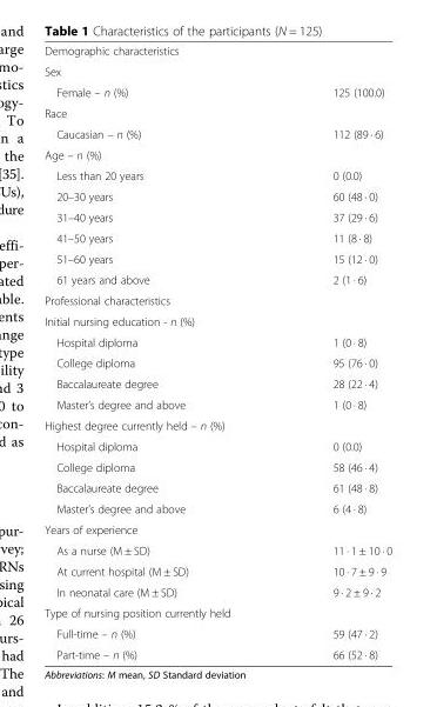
<table><tbody><tr><td colspan="2">Demographic characteristics</td></tr><tr><td colspan="2">Sex</td></tr><tr><td>Female – n (%)</td><td>125 (100.0)</td></tr><tr><td colspan="2">Race</td></tr><tr><td>Caucasian – n (%)</td><td>112 (89 · 6)</td></tr><tr><td colspan="2">Age – n (%)</td></tr><tr><td>Less than 20 years</td><td>0 (0.0)</td></tr><tr><td>20–30 years</td><td>60 (48 · 0)</td></tr><tr><td>31–40 years</td><td>37 (29 · 6)</td></tr><tr><td>41–50 years</td><td>11 (8 · 8)</td></tr><tr><td>51–60 years</td><td>15 (12 · 0)</td></tr><tr><td>61 years and above</td><td>2 (1 · 6)</td></tr><tr><td colspan="2">Professional characteristics</td></tr><tr><td colspan="2">Initial nursing education - n (%)</td></tr><tr><td>Hospital diploma</td><td>1 (0 · 8)</td></tr><tr><td>College diploma</td><td>95 (76 · 0)</td></tr><tr><td>Baccalaureate degree</td><td>28 (22 · 4)</td></tr><tr><td>Master’s degree and above</td><td>1 (0 · 8)</td></tr><tr><td colspan="2">Highest degree currently held – n (%)</td></tr><tr><td>Hospital diploma</td><td>0 (0.0)</td></tr><tr><td>College diploma</td><td>58 (46 · 4)</td></tr><tr><td>Baccalaureate degree</td><td>61 (48 · 8)</td></tr><tr><td>Master’s degree and above</td><td>6 (4 · 8)</td></tr><tr><td colspan="2">Years of experience</td></tr><tr><td>As a nurse (M ± SD)</td><td>11 · 1 ± 10 · 0</td></tr><tr><td>At current hospital (M ± SD)</td><td>10 · 7 ± 9 · 9</td></tr><tr><td>In neonatal care (M ± SD)</td><td>9 · 2 ± 9 · 2</td></tr><tr><td colspan="2">Type of nursing position currently held</td></tr><tr><td>Full-time – n (%)</td><td>59 (47 · 2)</td></tr><tr><td>Part-time – n (%)</td><td>66 (52 · 8)</td></tr></tbody></table>